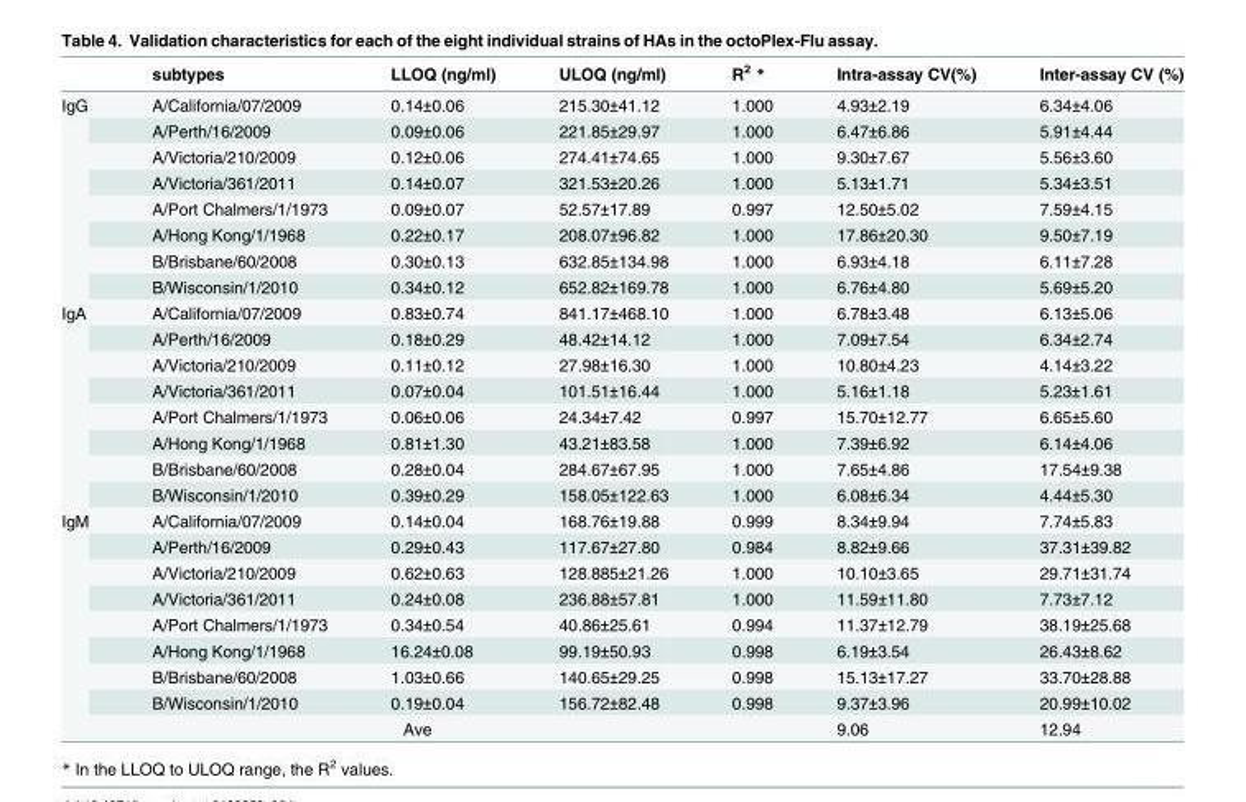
<table><thead><tr><td></td><td>subtypes</td><td>LLOQ (ng/ml)</td><td>ULOQ (ng/ml)</td><td>R<sup>2</sup> *</td><td>Intra-assay CV(%)</td><td>Inter-assay CV (%)</td></tr></thead><tbody><tr><td rowspan="8">IgG</td><td>A/California/07/2009</td><td>0.14±0.06</td><td>215.30±41.12</td><td>1.000</td><td>4.93±2.19</td><td>6.34±4.06</td></tr><tr><td>A/Perth/16/2009</td><td>0.09±0.06</td><td>221.85±29.97</td><td>1.000</td><td>6.47±6.86</td><td>5.91±4.44</td></tr><tr><td>A/Victoria/210/2009</td><td>0.12±0.06</td><td>274.41±74.65</td><td>1.000</td><td>9.30±7.67</td><td>5.56±3.60</td></tr><tr><td>A/Victoria/361/2011</td><td>0.14±0.07</td><td>321.53±20.26</td><td>1.000</td><td>5.13±1.71</td><td>5.34±3.51</td></tr><tr><td>A/Port Chalmers/1/1973</td><td>0.09±0.07</td><td>52.57±17.89</td><td>0.997</td><td>12.50±5.02</td><td>7.59±4.15</td></tr><tr><td>A/Hong Kong/1/1968</td><td>0.22±0.17</td><td>208.07±96.82</td><td>1.000</td><td>17.86±20.30</td><td>9.50±7.19</td></tr><tr><td>B/Brisbane/60/2008</td><td>0.30±0.13</td><td>632.85±134.98</td><td>1.000</td><td>6.93±4.18</td><td>6.11±7.28</td></tr><tr><td>B/Wisconsin/1/2010</td><td>0.34±0.12</td><td>652.82±169.78</td><td>1.000</td><td>6.76±4.80</td><td>5.69±5.20</td></tr><tr><td rowspan="8">IgA</td><td>A/California/07/2009</td><td>0.83±0.74</td><td>841.17±468.10</td><td>1.000</td><td>6.78±3.48</td><td>6.13±5.06</td></tr><tr><td>A/Perth/16/2009</td><td>0.18±0.29</td><td>48.42±14.12</td><td>1.000</td><td>7.09±7.54</td><td>6.34±2.74</td></tr><tr><td>A/Victoria/210/2009</td><td>0.11±0.12</td><td>27.98±16.30</td><td>1.000</td><td>10.80±4.23</td><td>4.14±3.22</td></tr><tr><td>A/Victoria/361/2011</td><td>0.07±0.04</td><td>101.51±16.44</td><td>1.000</td><td>5.16±1.18</td><td>5.23±1.61</td></tr><tr><td>A/Port Chalmers/1/1973</td><td>0.06±0.06</td><td>24.34±7.42</td><td>0.997</td><td>15.70±12.77</td><td>6.65±5.60</td></tr><tr><td>A/Hong Kong/1/1968</td><td>0.81±1.30</td><td>43.21±83.58</td><td>1.000</td><td>7.39±6.92</td><td>6.14±4.06</td></tr><tr><td>B/Brisbane/60/2008</td><td>0.28±0.04</td><td>284.67±67.95</td><td>1.000</td><td>7.65±4.86</td><td>17.54±9.38</td></tr><tr><td>B/Wisconsin/1/2010</td><td>0.39±0.29</td><td>158.05±122.63</td><td>1.000</td><td>6.08±6.34</td><td>4.44±5.30</td></tr><tr><td rowspan="8">IgM</td><td>A/California/07/2009</td><td>0.14±0.04</td><td>168.76±19.88</td><td>0.999</td><td>8.34±9.94</td><td>7.74±5.83</td></tr><tr><td>A/Perth/16/2009</td><td>0.29±0.43</td><td>117.67±27.80</td><td>0.984</td><td>8.82±9.66</td><td>37.31±39.82</td></tr><tr><td>A/Victoria/210/2009</td><td>0.62±0.63</td><td>128.885±21.26</td><td>1.000</td><td>10.10±3.65</td><td>29.71±31.74</td></tr><tr><td>A/Victoria/361/2011</td><td>0.24±0.08</td><td>236.88±57.81</td><td>1.000</td><td>11.59±11.80</td><td>7.73±7.12</td></tr><tr><td>A/Port Chalmers/1/1973</td><td>0.34±0.54</td><td>40.86±25.61</td><td>0.994</td><td>11.37±12.79</td><td>38.19±25.68</td></tr><tr><td>A/Hong Kong/1/1968</td><td>16.24±0.08</td><td>99.19±50.93</td><td>0.998</td><td>6.19±3.54</td><td>26.43±8.62</td></tr><tr><td>B/Brisbane/60/2008</td><td>1.03±0.66</td><td>140.65±29.25</td><td>0.998</td><td>15.13±17.27</td><td>33.70±28.88</td></tr><tr><td>B/Wisconsin/1/2010</td><td>0.19±0.04</td><td>156.72±82.48</td><td>0.998</td><td>9.37±3.96</td><td>20.99±10.02</td></tr><tr><td colspan="5">Ave</td><td>9.06</td><td>12.94</td></tr></tbody></table>